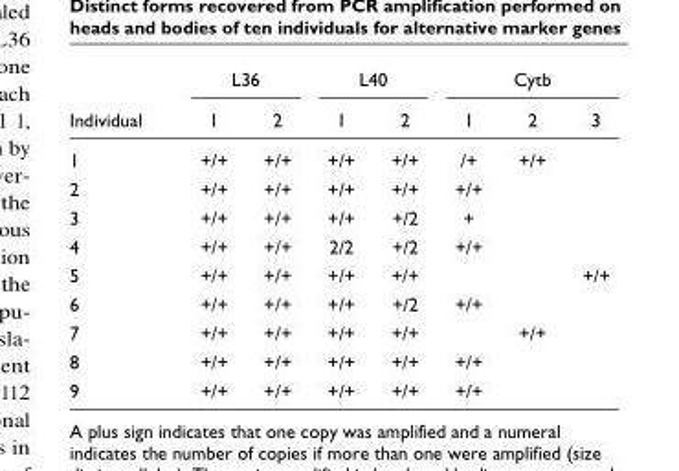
<table><thead><tr><td rowspan="2">Individual</td><td colspan="2">L36</td><td colspan="2">L40</td><td colspan="3">Cytb</td></tr><tr><td>1</td><td>2</td><td>1</td><td>2</td><td>1</td><td>2</td><td>3</td></tr></thead><tbody><tr><td>1</td><td>+/+</td><td>+/+</td><td>+/+</td><td>+/+</td><td>/+</td><td>+/+</td><td></td></tr><tr><td>2</td><td>+/+</td><td>+/+</td><td>+/+</td><td>+/+</td><td>+/+</td><td></td><td></td></tr><tr><td>3</td><td>+/+</td><td>+/+</td><td>+/+</td><td>+/2</td><td>+</td><td></td><td></td></tr><tr><td>4</td><td>+/+</td><td>+/+</td><td>2/2</td><td>+/2</td><td>+/+</td><td></td><td></td></tr><tr><td>5</td><td>+/+</td><td>+/+</td><td>+/+</td><td>+/+</td><td></td><td></td><td>+/+</td></tr><tr><td>6</td><td>+/+</td><td>+/+</td><td>+/+</td><td>+/2</td><td>+/+</td><td></td><td></td></tr><tr><td>7</td><td>+/+</td><td>+/+</td><td>+/+</td><td>+/+</td><td></td><td>+/+</td><td></td></tr><tr><td>8</td><td>+/+</td><td>+/+</td><td>+/+</td><td>+/+</td><td>+/+</td><td></td><td></td></tr><tr><td>9</td><td>+/+</td><td>+/+</td><td>+/+</td><td>+/+</td><td>+/+</td><td></td><td></td></tr></tbody></table>